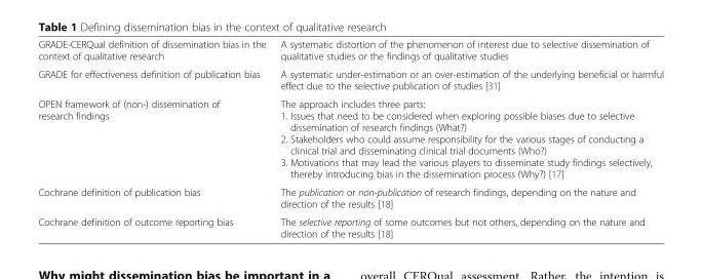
<table><tbody><tr><td>GRADE-CERQual definition of dissemination bias in the context of qualitative research</td><td>A systematic distortion of the phenomenon of interest due to selective dissemination of qualitative studies or the findings of qualitative studies</td></tr><tr><td>GRADE for effectiveness definition of publication bias</td><td>A systematic under-estimation or an over-estimation of the underlying beneficial or harmful effect due to the selective publication of studies [31]</td></tr><tr><td>OPEN framework of (non-) dissemination of research findings</td><td>The approach includes three parts: 1. Issues that need to be considered when exploring possible biases due to selective dissemination of research findings (What?) 2. Stakeholders who could assume responsibility for the various stages of conducting a clinical trial and disseminating clinical trial documents (Who?) 3. Motivations that may lead the various players to disseminate study findings selectively, thereby introducing bias in the dissemination process (Why?) [17]</td></tr><tr><td>Cochrane definition of publication bias</td><td>The publication or non-publication of research findings, depending on the nature and direction of the results [18]</td></tr><tr><td>Cochrane definition of outcome reporting bias</td><td>The selective reporting of some outcomes but not others, depending on the nature and direction of the results [18]</td></tr></tbody></table>